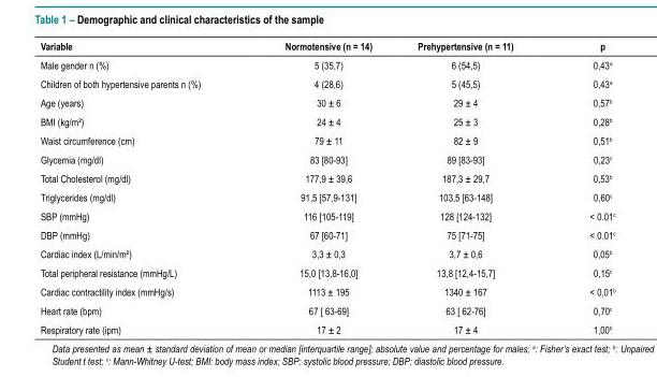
<table><thead><tr><td>Variable</td><td>Normotensive (n = 14)</td><td>Prehypertensive (n = 11)</td><td>p</td></tr></thead><tbody><tr><td>Male gender n (%)</td><td>5 (35,7)</td><td>6 (54,5)</td><td>0,43<sup>a</sup></td></tr><tr><td>Children of both hypertensive parents n (%)</td><td>4 (28,6)</td><td>5 (45,5)</td><td>0,43<sup>a</sup></td></tr><tr><td>Age (years)</td><td>30 ± 6</td><td>29 ± 4</td><td>0,57<sup>b</sup></td></tr><tr><td>BMI (kg/m²)</td><td>24 ± 4</td><td>25 ± 3</td><td>0,28<sup>b</sup></td></tr><tr><td>Waist circumference (cm)</td><td>79 ± 11</td><td>82 ± 9</td><td>0,51<sup>b</sup></td></tr><tr><td>Glycemia (mg/dl)</td><td>83 [80-93]</td><td>89 [83-93]</td><td>0,23<sup>c</sup></td></tr><tr><td>Total Cholesterol (mg/dl)</td><td>177,9 ± 39,6</td><td>187,3 ± 29,7</td><td>0,53<sup>b</sup></td></tr><tr><td>Triglycerides (mg/dl)</td><td>91,5 [57,9-131]</td><td>103,5 [63-148]</td><td>0,60<sup>c</sup></td></tr><tr><td>SBP (mmHg)</td><td>116 [105-119]</td><td>128 [124-132]</td><td>&lt; 0.01<sup>c</sup></td></tr><tr><td>DBP (mmHg)</td><td>67 [60-71]</td><td>75 [71-75]</td><td>&lt; 0.01<sup>c</sup></td></tr><tr><td>Cardiac index (L/min/m²)</td><td>3,3 ± 0,3</td><td>3,7 ± 0,6</td><td>0,05<sup>b</sup></td></tr><tr><td>Total peripheral resistance (mmHg/L)</td><td>15,0 [13,8-16,0]</td><td>13,8 [12,4-15,7]</td><td>0,15<sup>c</sup></td></tr><tr><td>Cardiac contractility index (mmHg/s)</td><td>1113 ± 195</td><td>1340 ± 167</td><td>&lt; 0,01<sup>b</sup></td></tr><tr><td>Heart rate (bpm)</td><td>67 [ 63-69]</td><td>63 [ 62-76]</td><td>0,70<sup>c</sup></td></tr><tr><td>Respiratory rate (ipm)</td><td>17 ± 2</td><td>17 ± 4</td><td>1,00<sup>b</sup></td></tr></tbody></table>